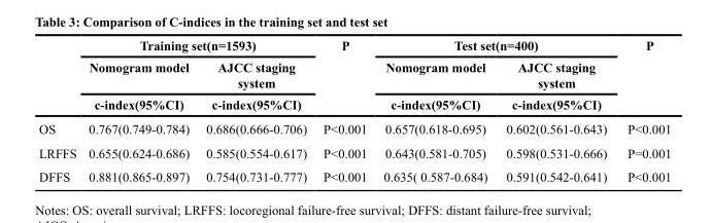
<table><thead><tr><td rowspan="3"></td><td colspan="2">Training set(n=1593)</td><td rowspan="3">P</td><td colspan="2">Test set(n=400)</td><td rowspan="3">P</td></tr><tr><td rowspan="2">Nomogram model c-index(95%CI)</td><td rowspan="2">AJCC staging system c-index(95%CI)</td><td rowspan="2">Nomogram model c-index(95%CI)</td><td rowspan="2">AJCC staging system c-index(95%CI)</td></tr><tr></tr></thead><tbody><tr><td>OS</td><td>0.767(0.749-0.784)</td><td>0.686(0.666-0.706)</td><td>P&lt;0.001</td><td>0.657(0.618-0.695)</td><td>0.602(0.561-0.643)</td><td>P&lt;0.001</td></tr><tr><td>LRFFS</td><td>0.655(0.624-0.686)</td><td>0.585(0.554-0.617)</td><td>P&lt;0.001</td><td>0.643(0.581-0.705)</td><td>0.598(0.531-0.666)</td><td>P=0.001</td></tr><tr><td>DFFS</td><td>0.881(0.865-0.897)</td><td>0.754(0.731-0.777)</td><td>P&lt;0.001</td><td>0.635( 0.587-0.684)</td><td>0.591(0.542-0.641)</td><td>P&lt;0.001</td></tr></tbody></table>